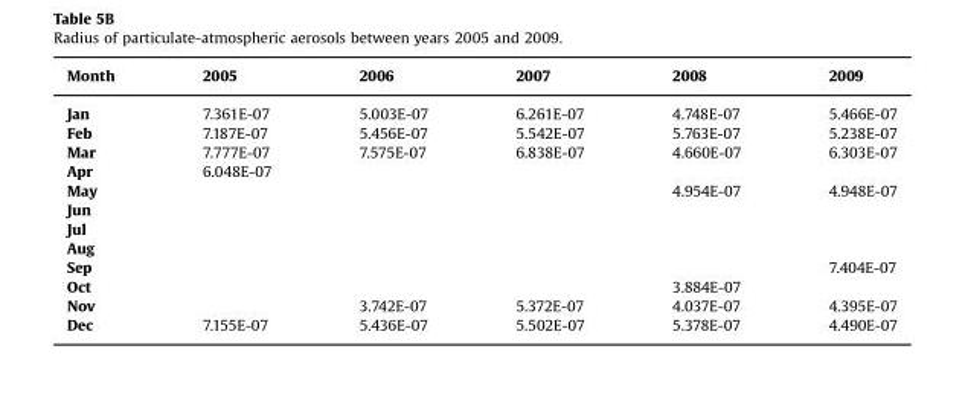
<table><thead><tr><td>Month</td><td>2005</td><td>2006</td><td>2007</td><td>2008</td><td>2009</td></tr></thead><tbody><tr><td>Jan</td><td>7.361E-07</td><td>5.003E-07</td><td>6.261E-07</td><td>4.748E-07</td><td>5.466E-07</td></tr><tr><td>Feb</td><td>7.187E-07</td><td>5.456E-07</td><td>5.542E-07</td><td>5.763E-07</td><td>5.238E-07</td></tr><tr><td>Mar</td><td>7.777E-07</td><td>7.575E-07</td><td>6.838E-07</td><td>4.660E-07</td><td>6.303E-07</td></tr><tr><td>Apr</td><td>6.048E-07</td><td></td><td></td><td></td><td></td></tr><tr><td>May</td><td></td><td></td><td></td><td>4.954E-07</td><td>4.948E-07</td></tr><tr><td colspan="6">Jun</td></tr><tr><td colspan="6">Jul</td></tr><tr><td colspan="6">Aug</td></tr><tr><td>Sep</td><td></td><td></td><td></td><td></td><td>7.404E-07</td></tr><tr><td>Oct</td><td></td><td></td><td></td><td>3.884E-07</td><td></td></tr><tr><td>Nov</td><td></td><td>3.742E-07</td><td>5.372E-07</td><td>4.037E-07</td><td>4.395E-07</td></tr><tr><td>Dec</td><td>7.155E-07</td><td>5.436E-07</td><td>5.502E-07</td><td>5.378E-07</td><td>4.490E-07</td></tr></tbody></table>